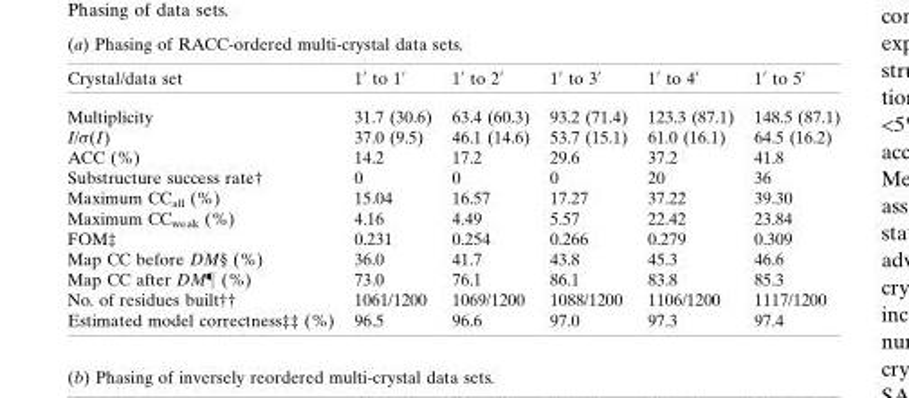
<table><thead><tr><td>Crystal/data set</td><td>10 to 10</td><td>10 to 20</td><td>10 to 30</td><td>10 to 40</td><td>10 to 50</td></tr></thead><tbody><tr><td>Multiplicity</td><td>31.7 (30.6)</td><td>63.4 (60.3)</td><td>93.2 (71.4)</td><td>123.3 (87.1)</td><td>148.5 (87.1)</td></tr><tr><td>I/�(I)</td><td>37.0 (9.5)</td><td>46.1 (14.6)</td><td>53.7 (15.1)</td><td>61.0 (16.1)</td><td>64.5 (16.2)</td></tr><tr><td>ACC (%)</td><td>14.2</td><td>17.2</td><td>29.6</td><td>37.2</td><td>41.8</td></tr><tr><td>Substructure success rate†</td><td>0</td><td>0</td><td>0</td><td>20</td><td>36</td></tr><tr><td>Maximum CC<sub>all</sub> (%)</td><td>15.04</td><td>16.57</td><td>17.27</td><td>37.22</td><td>39.30</td></tr><tr><td>Maximum CC<sub>weak</sub> (%)</td><td>4.16</td><td>4.49</td><td>5.57</td><td>22.42</td><td>23.84</td></tr><tr><td>FOM‡</td><td>0.231</td><td>0.254</td><td>0.266</td><td>0.279</td><td>0.309</td></tr><tr><td>Map CC before DM§ (%)</td><td>36.0</td><td>41.7</td><td>43.8</td><td>45.3</td><td>46.6</td></tr><tr><td>Map CC after DM} (%)</td><td>73.0</td><td>76.1</td><td>86.1</td><td>83.8</td><td>85.3</td></tr><tr><td>No. of residues built††</td><td>1061/1200</td><td>1069/1200</td><td>1088/1200</td><td>1106/1200</td><td>1117/1200</td></tr><tr><td>Estimated model correctness‡‡ (%)</td><td>96.5</td><td>96.6</td><td>97.0</td><td>97.3</td><td>97.4</td></tr></tbody></table>